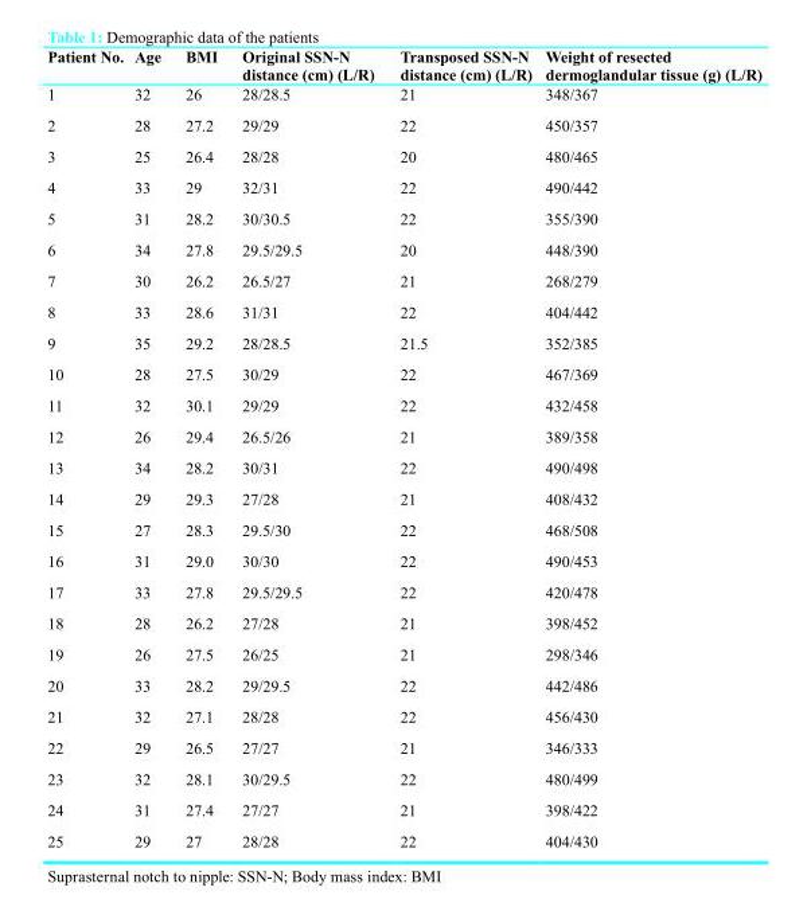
<table><thead><tr><td>Patient No.</td><td>Age</td><td>BMI</td><td>Original SSN-N distance (cm) (L/R)</td><td>Transposed SSN-N distance (cm) (L/R)</td><td>Weight of resected dermoglandular tissue (g) (L/R)</td></tr></thead><tbody><tr><td>1</td><td>32</td><td>26</td><td>28/28.5</td><td>21</td><td>348/367</td></tr><tr><td>2</td><td>28</td><td>27.2</td><td>29/29</td><td>22</td><td>450/357</td></tr><tr><td>3</td><td>25</td><td>26.4</td><td>28/28</td><td>20</td><td>480/465</td></tr><tr><td>4</td><td>33</td><td>29</td><td>32/31</td><td>22</td><td>490/442</td></tr><tr><td>5</td><td>31</td><td>28.2</td><td>30/30.5</td><td>22</td><td>355/390</td></tr><tr><td>6</td><td>34</td><td>27.8</td><td>29.5/29.5</td><td>20</td><td>448/390</td></tr><tr><td>7</td><td>30</td><td>26.2</td><td>26.5/27</td><td>21</td><td>268/279</td></tr><tr><td>8</td><td>33</td><td>28.6</td><td>31/31</td><td>22</td><td>404/442</td></tr><tr><td>9</td><td>35</td><td>29.2</td><td>28/28.5</td><td>21.5</td><td>352/385</td></tr><tr><td>10</td><td>28</td><td>27.5</td><td>30/29</td><td>22</td><td>467/369</td></tr><tr><td>11</td><td>32</td><td>30.1</td><td>29/29</td><td>22</td><td>432/458</td></tr><tr><td>12</td><td>26</td><td>29.4</td><td>26.5/26</td><td>21</td><td>389/358</td></tr><tr><td>13</td><td>34</td><td>28.2</td><td>30/31</td><td>22</td><td>490/498</td></tr><tr><td>14</td><td>29</td><td>29.3</td><td>27/28</td><td>21</td><td>408/432</td></tr><tr><td>15</td><td>27</td><td>28.3</td><td>29.5/30</td><td>22</td><td>468/508</td></tr><tr><td>16</td><td>31</td><td>29.0</td><td>30/30</td><td>22</td><td>490/453</td></tr><tr><td>17</td><td>33</td><td>27.8</td><td>29.5/29.5</td><td>22</td><td>420/478</td></tr><tr><td>18</td><td>28</td><td>26.2</td><td>27/28</td><td>21</td><td>398/452</td></tr><tr><td>19</td><td>26</td><td>27.5</td><td>26/25</td><td>21</td><td>298/346</td></tr><tr><td>20</td><td>33</td><td>28.2</td><td>29/29.5</td><td>22</td><td>442/486</td></tr><tr><td>21</td><td>32</td><td>27.1</td><td>28/28</td><td>22</td><td>456/430</td></tr><tr><td>22</td><td>29</td><td>26.5</td><td>27/27</td><td>21</td><td>346/333</td></tr><tr><td>23</td><td>32</td><td>28.1</td><td>30/29.5</td><td>22</td><td>480/499</td></tr><tr><td>24</td><td>31</td><td>27.4</td><td>27/27</td><td>21</td><td>398/422</td></tr><tr><td>25</td><td>29</td><td>27</td><td>28/28</td><td>22</td><td>404/430</td></tr></tbody></table>